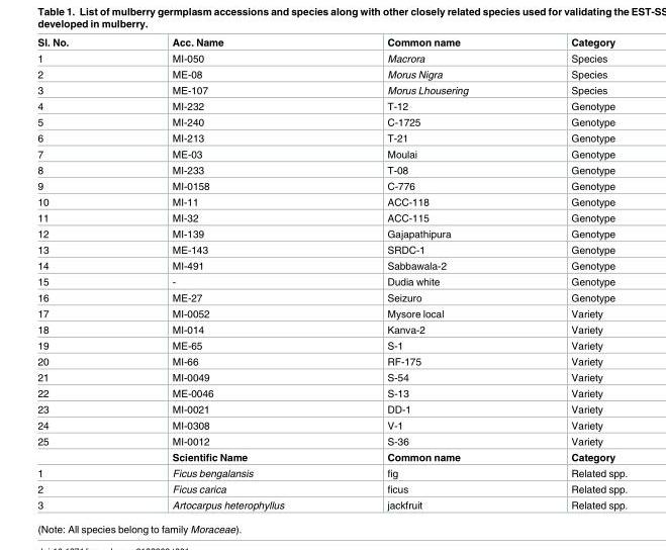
<table><tbody><tr><td>Sl. No.</td><td>Acc. Name</td><td>Common name</td><td>Category</td></tr><tr><td>1</td><td>MI-050</td><td>Macrora</td><td>Species</td></tr><tr><td>2</td><td>ME-08</td><td>Morus Nigra</td><td>Species</td></tr><tr><td>3</td><td>ME-107</td><td>Morus Lhousering</td><td>Species</td></tr><tr><td>4</td><td>MI-232</td><td>T-12</td><td>Genotype</td></tr><tr><td>5</td><td>MI-240</td><td>C-1725</td><td>Genotype</td></tr><tr><td>6</td><td>MI-213</td><td>T-21</td><td>Genotype</td></tr><tr><td>7</td><td>ME-03</td><td>Moulai</td><td>Genotype</td></tr><tr><td>8</td><td>MI-233</td><td>T-08</td><td>Genotype</td></tr><tr><td>9</td><td>MI-0158</td><td>C-776</td><td>Genotype</td></tr><tr><td>10</td><td>MI-11</td><td>ACC-118</td><td>Genotype</td></tr><tr><td>11</td><td>MI-32</td><td>ACC-115</td><td>Genotype</td></tr><tr><td>12</td><td>MI-139</td><td>Gajapathipura</td><td>Genotype</td></tr><tr><td>13</td><td>ME-143</td><td>SRDC-1</td><td>Genotype</td></tr><tr><td>14</td><td>MI-491</td><td>Sabbawala-2</td><td>Genotype</td></tr><tr><td>15</td><td>-</td><td>Dudia white</td><td>Genotype</td></tr><tr><td>16</td><td>ME-27</td><td>Seizuro</td><td>Genotype</td></tr><tr><td>17</td><td>MI-0052</td><td>Mysore local</td><td>Variety</td></tr><tr><td>18</td><td>MI-014</td><td>Kanva-2</td><td>Variety</td></tr><tr><td>19</td><td>ME-65</td><td>S-1</td><td>Variety</td></tr><tr><td>20</td><td>MI-66</td><td>RF-175</td><td>Variety</td></tr><tr><td>21</td><td>MI-0049</td><td>S-54</td><td>Variety</td></tr><tr><td>22</td><td>ME-0046</td><td>S-13</td><td>Variety</td></tr><tr><td>23</td><td>MI-0021</td><td>DD-1</td><td>Variety</td></tr><tr><td>24</td><td>MI-0308</td><td>V-1</td><td>Variety</td></tr><tr><td rowspan="2">25</td><td>MI-0012</td><td>S-36</td><td>Variety</td></tr><tr><td>Scientific Name</td><td>Common name</td><td>Category</td></tr><tr><td>1</td><td>Ficus bengalansis</td><td>fig</td><td>Related spp.</td></tr><tr><td>2</td><td>Ficus carica</td><td>ficus</td><td>Related spp.</td></tr><tr><td>3</td><td>Artocarpus heterophyllus</td><td>jackfruit</td><td>Related spp.</td></tr></tbody></table>